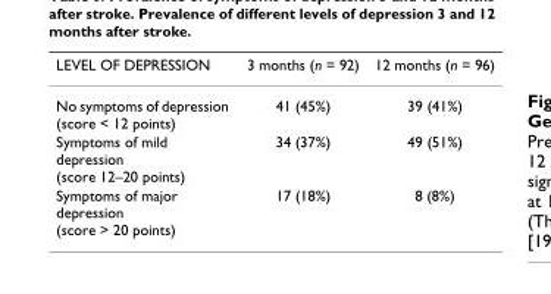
<table><thead><tr><td>LEVEL OF DEPRESSION</td><td>3 months (n = 92)</td><td>12 months (n = 96)</td></tr></thead><tbody><tr><td>No symptoms of depression (score &lt; 12 points)</td><td>41 (45%)</td><td>39 (41%)</td></tr><tr><td>Symptoms of mild depression (score 12–20 points)</td><td>34 (37%)</td><td>49 (51%)</td></tr><tr><td>Symptoms of major depression (score &gt; 20 points)</td><td>17 (18%)</td><td>8 (8%)</td></tr></tbody></table>